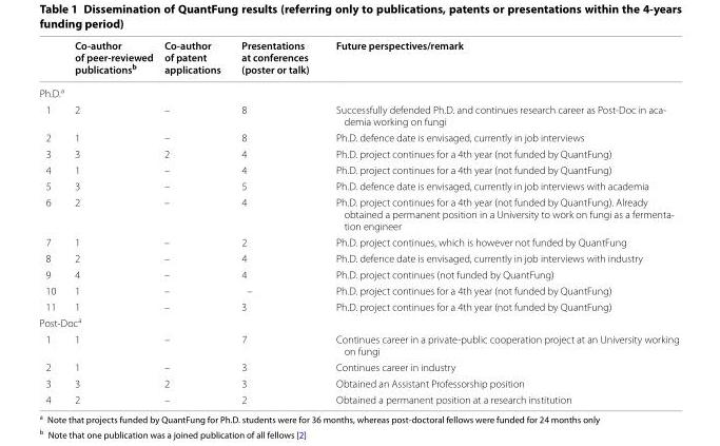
<table><thead><tr><td></td><td>Co-author of peer-reviewed publications<sup>b</sup></td><td>Co-author of patent applications</td><td>Presentations at conferences (poster or talk)</td><td>Future perspectives/remark</td></tr></thead><tbody><tr><td colspan="5">Ph.D.<sup>a</sup></td></tr><tr><td>1</td><td>2</td><td>–</td><td>8</td><td>Successfully defended Ph.D. and continues research career as Post‑Doc in aca‑ demia working on fungi</td></tr><tr><td>2</td><td>1</td><td>–</td><td>8</td><td>Ph.D. defence date is envisaged, currently in job interviews</td></tr><tr><td>3</td><td>3</td><td>2</td><td>4</td><td>Ph.D. project continues for a 4th year (not funded by QuantFung)</td></tr><tr><td>4</td><td>1</td><td>–</td><td>4</td><td>Ph.D. project continues for a 4th year (not funded by QuantFung)</td></tr><tr><td>5</td><td>3</td><td>–</td><td>5</td><td>Ph.D. defence date is envisaged, currently in job interviews with academia</td></tr><tr><td>6</td><td>2</td><td>–</td><td>4</td><td>Ph.D. project continues for a 4th year (not funded by QuantFung). Already obtained a permanent position in a University to work on fungi as a fermenta‑ tion engineer</td></tr><tr><td>7</td><td>1</td><td>–</td><td>2</td><td>Ph.D. project continues, which is however not funded by QuantFung</td></tr><tr><td>8</td><td>2</td><td>–</td><td>4</td><td>Ph.D. defence date is envisaged, currently in job interviews with industry</td></tr><tr><td>9</td><td>4</td><td>–</td><td>4</td><td>Ph.D. project continues (not funded by QuantFung)</td></tr><tr><td>10</td><td>1</td><td>–</td><td>–</td><td>Ph.D. project continues for a 4th year (not funded by QuantFung)</td></tr><tr><td>11</td><td>1</td><td>–</td><td>3</td><td>Ph.D. project continues for a 4th year (not funded by QuantFung)</td></tr><tr><td colspan="5">Post‑Doc<sup>a</sup></td></tr><tr><td>1</td><td>1</td><td>–</td><td>7</td><td>Continues career in a private‑public cooperation project at an University working on fungi</td></tr><tr><td>2</td><td>1</td><td>–</td><td>3</td><td>Continues career in industry</td></tr><tr><td>3</td><td>3</td><td>2</td><td>3</td><td>Obtained an Assistant Professorship position</td></tr><tr><td>4</td><td>2</td><td>–</td><td>2</td><td>Obtained a permanent position at a research institution</td></tr></tbody></table>